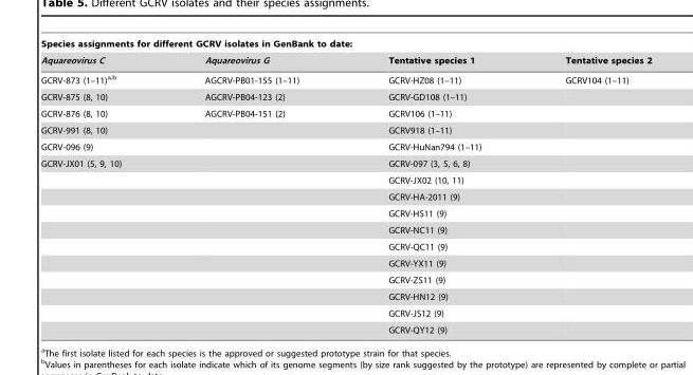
<table><thead><tr><td colspan="4">Species assignments for different GCRV isolates in GenBank to date:</td></tr><tr><td>Aquareovirus C</td><td>Aquareovirus G</td><td>Tentative species 1</td><td>Tentative species 2</td></tr></thead><tbody><tr><td>GCRV-873 (1–11)a,b</td><td>AGCRV-PB01-155 (1–11)</td><td>GCRV-HZ08 (1–11)</td><td>GCRV104 (1–11)</td></tr><tr><td>GCRV-875 (8, 10)</td><td>AGCRV-PB04-123 (2)</td><td>GCRV-GD108 (1–11)</td><td></td></tr><tr><td>GCRV-876 (8, 10)</td><td>AGCRV-PB04-151 (2)</td><td>GCRV106 (1–11)</td><td></td></tr><tr><td>GCRV-991 (8, 10)</td><td></td><td>GCRV918 (1–11)</td><td></td></tr><tr><td>GCRV-096 (9)</td><td></td><td>GCRV-HuNan794 (1–11)</td><td></td></tr><tr><td rowspan="11">GCRV-JX01 (5, 9, 10)</td><td></td><td>GCRV-097 (3, 5, 6, 8)</td><td></td></tr><tr><td></td><td>GCRV-JX02 (10, 11)</td><td></td></tr><tr><td></td><td>GCRV-HA-2011 (9)</td><td></td></tr><tr><td></td><td>GCRV-HS11 (9)</td><td></td></tr><tr><td></td><td>GCRV-NC11 (9)</td><td></td></tr><tr><td></td><td>GCRV-QC11 (9)</td><td></td></tr><tr><td></td><td>GCRV-YX11 (9)</td><td></td></tr><tr><td></td><td>GCRV-ZS11 (9)</td><td></td></tr><tr><td></td><td>GCRV-HN12 (9)</td><td></td></tr><tr><td></td><td>GCRV-JS12 (9)</td><td></td></tr><tr><td></td><td>GCRV-QY12 (9)</td><td></td></tr></tbody></table>